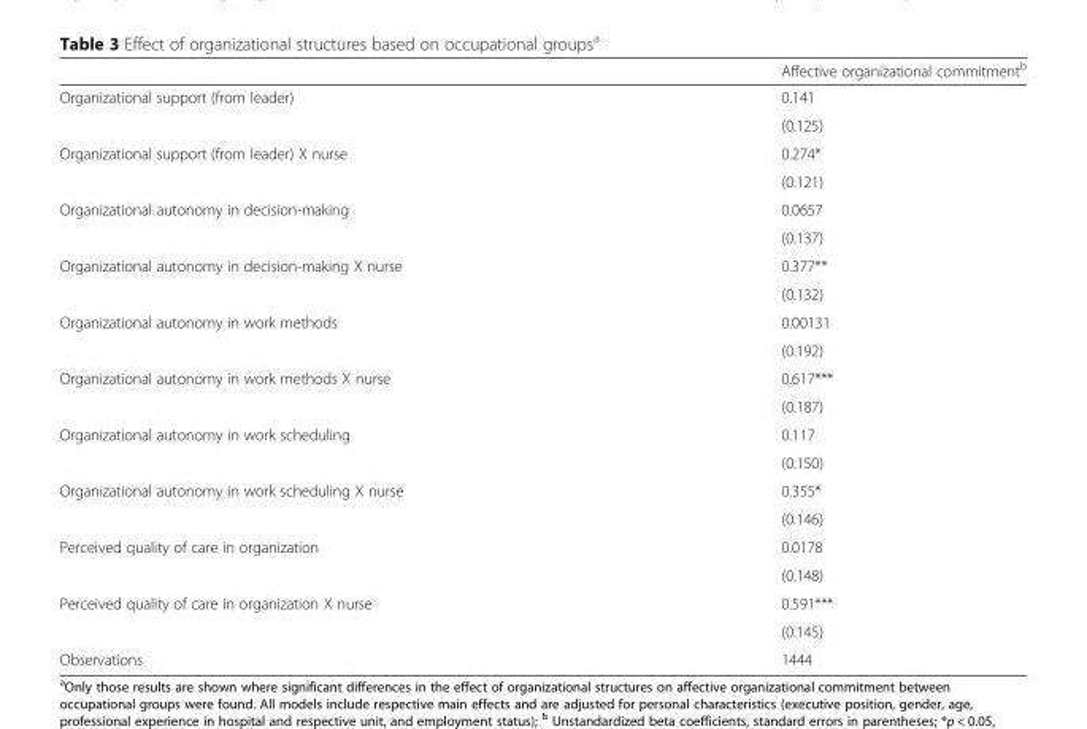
<table><thead><tr><td></td><td>Affective organizational commitment<sup>b</sup></td></tr></thead><tbody><tr><td rowspan="2">Organizational support (from leader)</td><td>0.141</td></tr><tr><td>(0.125)</td></tr><tr><td rowspan="2">Organizational support (from leader) X nurse</td><td>0.274*</td></tr><tr><td>(0.121)</td></tr><tr><td rowspan="2">Organizational autonomy in decision-making</td><td>0.0657</td></tr><tr><td>(0.137)</td></tr><tr><td rowspan="2">Organizational autonomy in decision-making X nurse</td><td>0.377**</td></tr><tr><td>(0.132)</td></tr><tr><td rowspan="2">Organizational autonomy in work methods</td><td>0.00131</td></tr><tr><td>(0.192)</td></tr><tr><td rowspan="2">Organizational autonomy in work methods X nurse</td><td>0.617***</td></tr><tr><td>(0.187)</td></tr><tr><td rowspan="2">Organizational autonomy in work scheduling</td><td>0.117</td></tr><tr><td>(0.150)</td></tr><tr><td rowspan="2">Organizational autonomy in work scheduling X nurse</td><td>0.355*</td></tr><tr><td>(0.146)</td></tr><tr><td rowspan="2">Perceived quality of care in organization</td><td>0.0178</td></tr><tr><td>(0.148)</td></tr><tr><td rowspan="2">Perceived quality of care in organization X nurse</td><td>0.591***</td></tr><tr><td>(0.145)</td></tr><tr><td>Observations</td><td>1444</td></tr></tbody></table>